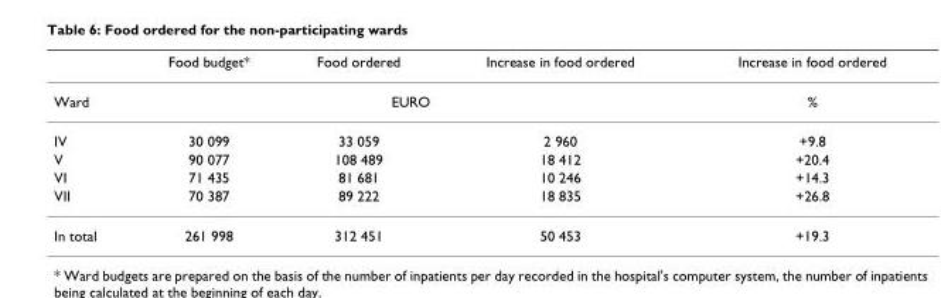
<table><thead><tr><td></td><td>Food budget*</td><td>Food ordered</td><td>Increase in food ordered</td><td>Increase in food ordered</td></tr></thead><tbody><tr><td>Ward</td><td colspan="3">EURO</td><td>%</td></tr><tr><td>IV</td><td>30 099</td><td>33 059</td><td>2 960</td><td>+9.8</td></tr><tr><td>V</td><td>90 077</td><td>108 489</td><td>18 412</td><td>+20.4</td></tr><tr><td>VI</td><td>71 435</td><td>81 681</td><td>10 246</td><td>+14.3</td></tr><tr><td>VII</td><td>70 387</td><td>89 222</td><td>18 835</td><td>+26.8</td></tr><tr><td>In total</td><td>261 998</td><td>312 451</td><td>50 453</td><td>+19.3</td></tr></tbody></table>